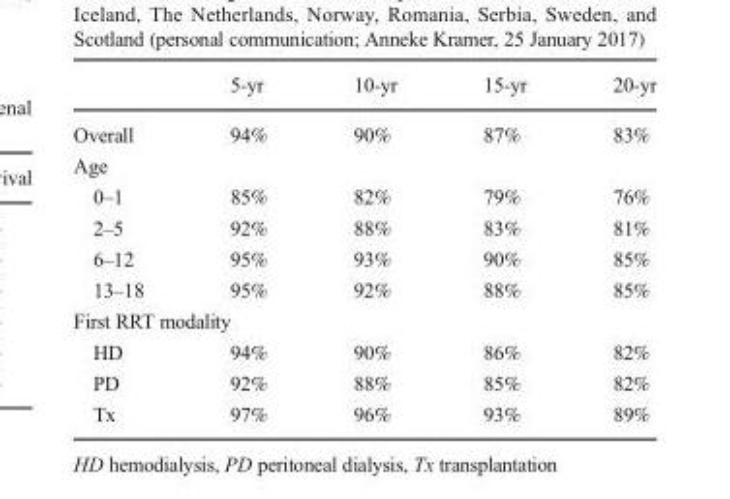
<table><thead><tr><td></td><td>5-yr</td><td>10-yr</td><td>15-yr</td><td>20-yr</td></tr></thead><tbody><tr><td>Overall</td><td>94%</td><td>90%</td><td>87%</td><td>83%</td></tr><tr><td colspan="5">Age</td></tr><tr><td>0–1</td><td>85%</td><td>82%</td><td>79%</td><td>76%</td></tr><tr><td>2–5</td><td>92%</td><td>88%</td><td>83%</td><td>81%</td></tr><tr><td>6–12</td><td>95%</td><td>93%</td><td>90%</td><td>85%</td></tr><tr><td>13–18</td><td>95%</td><td>92%</td><td>88%</td><td>85%</td></tr><tr><td colspan="5">First RRT modality</td></tr><tr><td>HD</td><td>94%</td><td>90%</td><td>86%</td><td>82%</td></tr><tr><td>PD</td><td>92%</td><td>88%</td><td>85%</td><td>82%</td></tr><tr><td>Tx</td><td>97%</td><td>96%</td><td>93%</td><td>89%</td></tr></tbody></table>